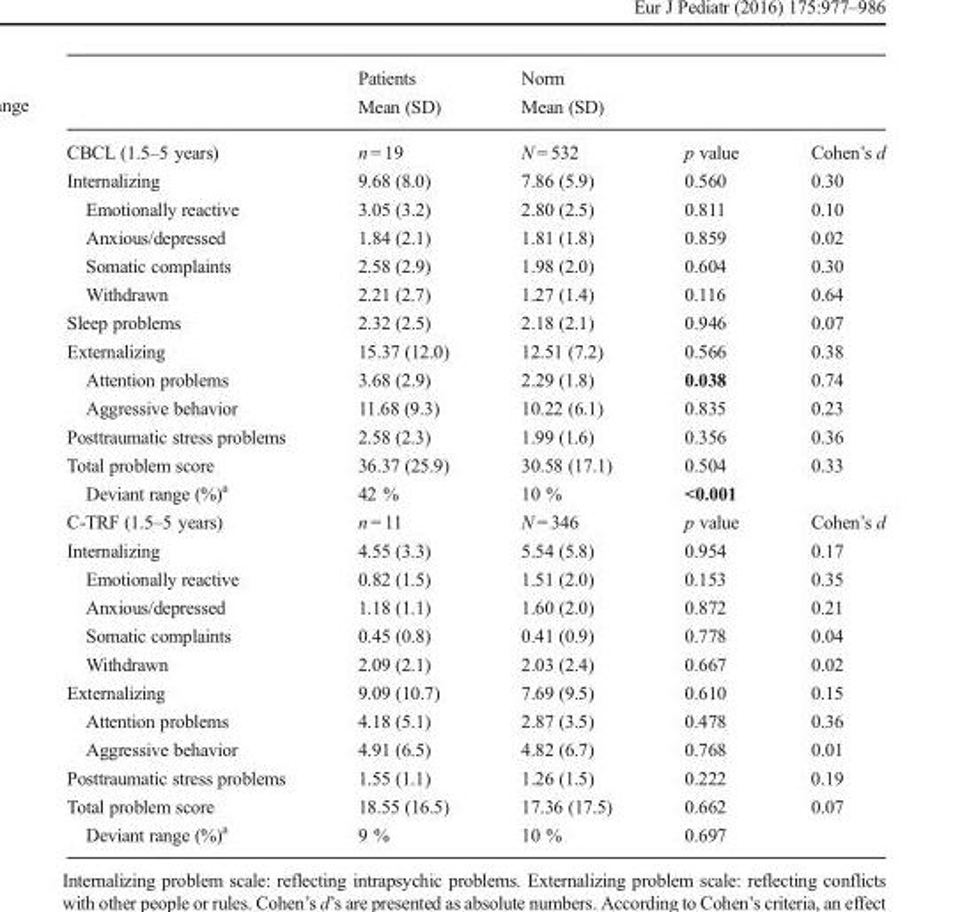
<table><thead><tr><td></td><td>Patients Mean (SD)</td><td>Norm Mean (SD)</td><td></td><td></td></tr></thead><tbody><tr><td>CBCL (1.5–5 years)</td><td>n = 19</td><td>N = 532</td><td>p value</td><td>Cohen’s d</td></tr><tr><td>Internalizing</td><td>9.68 (8.0)</td><td>7.86 (5.9)</td><td>0.560</td><td>0.30</td></tr><tr><td>Emotionally reactive</td><td>3.05 (3.2)</td><td>2.80 (2.5)</td><td>0.811</td><td>0.10</td></tr><tr><td>Anxious/depressed</td><td>1.84 (2.1)</td><td>1.81 (1.8)</td><td>0.859</td><td>0.02</td></tr><tr><td>Somatic complaints</td><td>2.58 (2.9)</td><td>1.98 (2.0)</td><td>0.604</td><td>0.30</td></tr><tr><td>Withdrawn</td><td>2.21 (2.7)</td><td>1.27 (1.4)</td><td>0.116</td><td>0.64</td></tr><tr><td>Sleep problems</td><td>2.32 (2.5)</td><td>2.18 (2.1)</td><td>0.946</td><td>0.07</td></tr><tr><td>Externalizing</td><td>15.37 (12.0)</td><td>12.51 (7.2)</td><td>0.566</td><td>0.38</td></tr><tr><td>Attention problems</td><td>3.68 (2.9)</td><td>2.29 (1.8)</td><td>0.038</td><td>0.74</td></tr><tr><td>Aggressive behavior</td><td>11.68 (9.3)</td><td>10.22 (6.1)</td><td>0.835</td><td>0.23</td></tr><tr><td>Posttraumatic stress problems</td><td>2.58 (2.3)</td><td>1.99 (1.6)</td><td>0.356</td><td>0.36</td></tr><tr><td>Total problem score</td><td>36.37 (25.9)</td><td>30.58 (17.1)</td><td>0.504</td><td>0.33</td></tr><tr><td>Deviant range (%)<sup>a</sup></td><td>42 %</td><td>10 %</td><td>&lt;0.001</td><td></td></tr><tr><td>C-TRF (1.5–5 years)</td><td>n = 11</td><td>N = 346</td><td>p value</td><td>Cohen’s d</td></tr><tr><td>Internalizing</td><td>4.55 (3.3)</td><td>5.54 (5.8)</td><td>0.954</td><td>0.17</td></tr><tr><td>Emotionally reactive</td><td>0.82 (1.5)</td><td>1.51 (2.0)</td><td>0.153</td><td>0.35</td></tr><tr><td>Anxious/depressed</td><td>1.18 (1.1)</td><td>1.60 (2.0)</td><td>0.872</td><td>0.21</td></tr><tr><td>Somatic complaints</td><td>0.45 (0.8)</td><td>0.41 (0.9)</td><td>0.778</td><td>0.04</td></tr><tr><td>Withdrawn</td><td>2.09 (2.1)</td><td>2.03 (2.4)</td><td>0.667</td><td>0.02</td></tr><tr><td>Externalizing</td><td>9.09 (10.7)</td><td>7.69 (9.5)</td><td>0.610</td><td>0.15</td></tr><tr><td>Attention problems</td><td>4.18 (5.1)</td><td>2.87 (3.5)</td><td>0.478</td><td>0.36</td></tr><tr><td>Aggressive behavior</td><td>4.91 (6.5)</td><td>4.82 (6.7)</td><td>0.768</td><td>0.01</td></tr><tr><td>Posttraumatic stress problems</td><td>1.55 (1.1)</td><td>1.26 (1.5)</td><td>0.222</td><td>0.19</td></tr><tr><td>Total problem score</td><td>18.55 (16.5)</td><td>17.36 (17.5)</td><td>0.662</td><td>0.07</td></tr><tr><td>Deviant range (%)<sup>a</sup></td><td>9 %</td><td>10 %</td><td>0.697</td><td></td></tr></tbody></table>